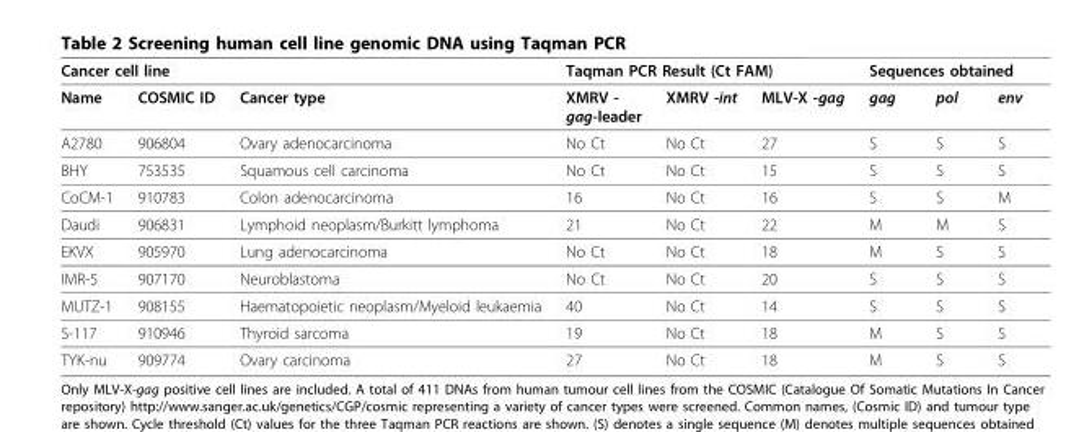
<table><thead><tr><td colspan="3">Cancer cell line</td><td colspan="3">Taqman PCR Result (Ct FAM)</td><td colspan="3">Sequences obtained</td></tr><tr><td>Name</td><td>COSMIC ID</td><td>Cancer type</td><td>XMRV - gag-leader</td><td>XMRV -int</td><td>MLV-X -gag</td><td>gag</td><td>pol</td><td>env</td></tr></thead><tbody><tr><td>A2780</td><td>906804</td><td>Ovary adenocarcinoma</td><td>No Ct</td><td>No Ct</td><td>27</td><td>S</td><td>S</td><td>S</td></tr><tr><td>BHY</td><td>753535</td><td>Squamous cell carcinoma</td><td>No Ct</td><td>No Ct</td><td>15</td><td>S</td><td>S</td><td>S</td></tr><tr><td>CoCM-1</td><td>910783</td><td>Colon adenocarcinoma</td><td>16</td><td>No Ct</td><td>16</td><td>S</td><td>S</td><td>M</td></tr><tr><td>Daudi</td><td>906831</td><td>Lymphoid neoplasm/Burkitt lymphoma</td><td>21</td><td>No Ct</td><td>22</td><td>M</td><td>M</td><td>S</td></tr><tr><td>EKVX</td><td>905970</td><td>Lung adenocarcinoma</td><td>No Ct</td><td>No Ct</td><td>18</td><td>M</td><td>S</td><td>S</td></tr><tr><td>IMR-5</td><td>907170</td><td>Neuroblastoma</td><td>No Ct</td><td>No Ct</td><td>20</td><td>S</td><td>S</td><td>S</td></tr><tr><td>MUTZ-1</td><td>908155</td><td>Haematopoietic neoplasm/Myeloid leukaemia</td><td>40</td><td>No Ct</td><td>14</td><td>S</td><td>S</td><td>S</td></tr><tr><td>S-117</td><td>910946</td><td>Thyroid sarcoma</td><td>19</td><td>No Ct</td><td>18</td><td>M</td><td>S</td><td>S</td></tr><tr><td>TYK-nu</td><td>909774</td><td>Ovary carcinoma</td><td>27</td><td>No Ct</td><td>18</td><td>M</td><td>S</td><td>S</td></tr></tbody></table>